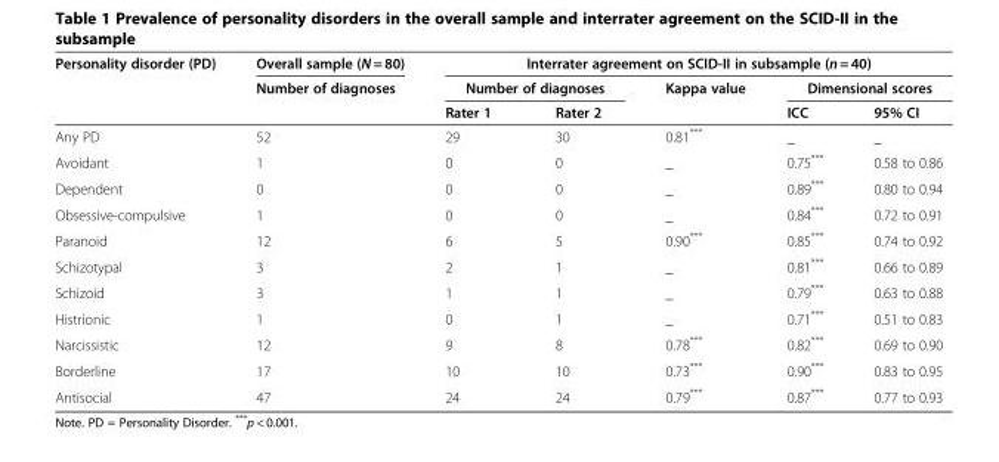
<table><thead><tr><td rowspan="3">Personality disorder (PD)</td><td rowspan="3">Overall sample (N = 80) Number of diagnoses</td><td colspan="5">Interrater agreement on SCID-II in subsample (n = 40)</td></tr><tr><td colspan="2">Number of diagnoses</td><td rowspan="2">Kappa value</td><td colspan="2">Dimensional scores</td></tr><tr><td>Rater 1</td><td>Rater 2</td><td>ICC</td><td>95% CI</td></tr></thead><tbody><tr><td>Any PD</td><td>52</td><td>29</td><td>30</td><td>0.81***</td><td>_</td><td>_</td></tr><tr><td>Avoidant</td><td>1</td><td>0</td><td>0</td><td>_</td><td>0.75***</td><td>0.58 to 0.86</td></tr><tr><td>Dependent</td><td>0</td><td>0</td><td>0</td><td>_</td><td>0.89***</td><td>0.80 to 0.94</td></tr><tr><td>Obsessive-compulsive</td><td>1</td><td>0</td><td>0</td><td>_</td><td>0.84***</td><td>0.72 to 0.91</td></tr><tr><td>Paranoid</td><td>12</td><td>6</td><td>5</td><td>0.90***</td><td>0.85***</td><td>0.74 to 0.92</td></tr><tr><td>Schizotypal</td><td>3</td><td>2</td><td>1</td><td>_</td><td>0.81***</td><td>0.66 to 0.89</td></tr><tr><td>Schizoid</td><td>3</td><td>1</td><td>1</td><td>_</td><td>0.79***</td><td>0.63 to 0.88</td></tr><tr><td>Histrionic</td><td>1</td><td>0</td><td>1</td><td>_</td><td>0.71***</td><td>0.51 to 0.83</td></tr><tr><td>Narcissistic</td><td>12</td><td>9</td><td>8</td><td>0.78***</td><td>0.82***</td><td>0.69 to 0.90</td></tr><tr><td>Borderline</td><td>17</td><td>10</td><td>10</td><td>0.73***</td><td>0.90***</td><td>0.83 to 0.95</td></tr><tr><td>Antisocial</td><td>47</td><td>24</td><td>24</td><td>0.79***</td><td>0.87***</td><td>0.77 to 0.93</td></tr></tbody></table>